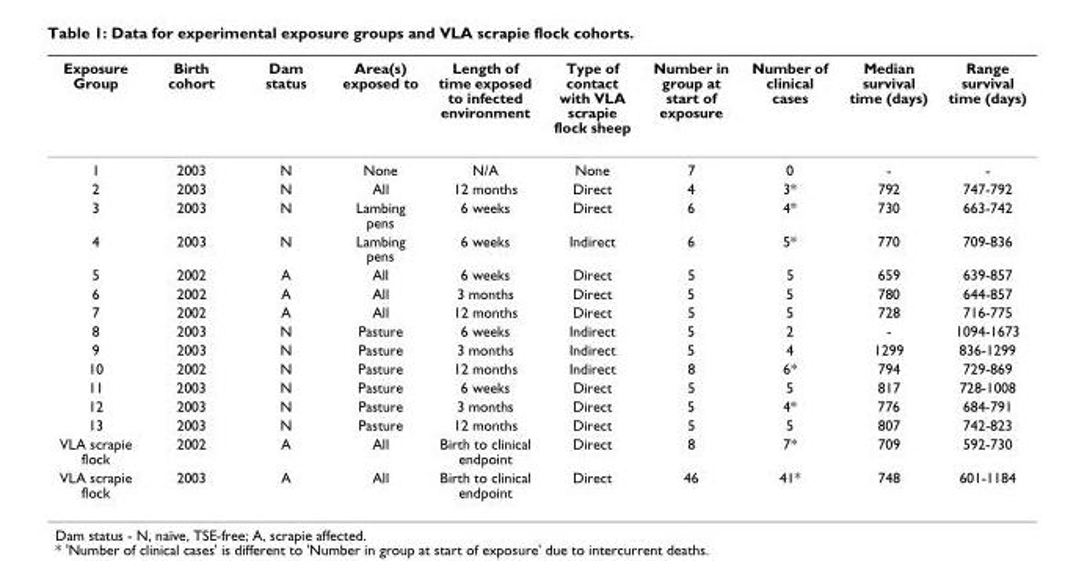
<table><thead><tr><td>Exposure Group</td><td>Birth cohort</td><td>Dam status</td><td>Area(s) exposed to</td><td>Length of time exposed to infected environment</td><td>Type of contact with VLA scrapie flock sheep</td><td>Number in group at start of exposure</td><td>Number of clinical cases</td><td>Median survival time (days)</td><td>Range survival time (days)</td></tr></thead><tbody><tr><td>1</td><td>2003</td><td>N</td><td>None</td><td>N/A</td><td>None</td><td>7</td><td>0</td><td>-</td><td>-</td></tr><tr><td>2</td><td>2003</td><td>N</td><td>All</td><td>12 months</td><td>Direct</td><td>4</td><td>3*</td><td>792</td><td>747-792</td></tr><tr><td>3</td><td>2003</td><td>N</td><td>Lambing pens</td><td>6 weeks</td><td>Direct</td><td>6</td><td>4*</td><td>730</td><td>663-742</td></tr><tr><td>4</td><td>2003</td><td>N</td><td>Lambing pens</td><td>6 weeks</td><td>Indirect</td><td>6</td><td>5*</td><td>770</td><td>709-836</td></tr><tr><td>5</td><td>2002</td><td>A</td><td>All</td><td>6 weeks</td><td>Direct</td><td>5</td><td>5</td><td>659</td><td>639-857</td></tr><tr><td>6</td><td>2002</td><td>A</td><td>All</td><td>3 months</td><td>Direct</td><td>5</td><td>5</td><td>780</td><td>644-857</td></tr><tr><td>7</td><td>2002</td><td>A</td><td>All</td><td>12 months</td><td>Direct</td><td>5</td><td>5</td><td>728</td><td>716-775</td></tr><tr><td>8</td><td>2003</td><td>N</td><td>Pasture</td><td>6 weeks</td><td>Indirect</td><td>5</td><td>2</td><td>-</td><td>1094-1673</td></tr><tr><td>9</td><td>2003</td><td>N</td><td>Pasture</td><td>3 months</td><td>Indirect</td><td>5</td><td>4</td><td>1299</td><td>836-1299</td></tr><tr><td>10</td><td>2002</td><td>N</td><td>Pasture</td><td>12 months</td><td>Indirect</td><td>8</td><td>6*</td><td>794</td><td>729-869</td></tr><tr><td>11</td><td>2003</td><td>N</td><td>Pasture</td><td>6 weeks</td><td>Direct</td><td>5</td><td>5</td><td>817</td><td>728-1008</td></tr><tr><td>12</td><td>2003</td><td>N</td><td>Pasture</td><td>3 months</td><td>Direct</td><td>5</td><td>4*</td><td>776</td><td>684-791</td></tr><tr><td>13</td><td>2003</td><td>N</td><td>Pasture</td><td>12 months</td><td>Direct</td><td>5</td><td>5</td><td>807</td><td>742-823</td></tr><tr><td>VLA scrapie flock</td><td>2002</td><td>A</td><td>All</td><td>Birth to clinical endpoint</td><td>Direct</td><td>8</td><td>7*</td><td>709</td><td>592-730</td></tr><tr><td>VLA scrapie flock</td><td>2003</td><td>A</td><td>All</td><td>Birth to clinical endpoint</td><td>Direct</td><td>46</td><td>41*</td><td>748</td><td>601-1184</td></tr></tbody></table>